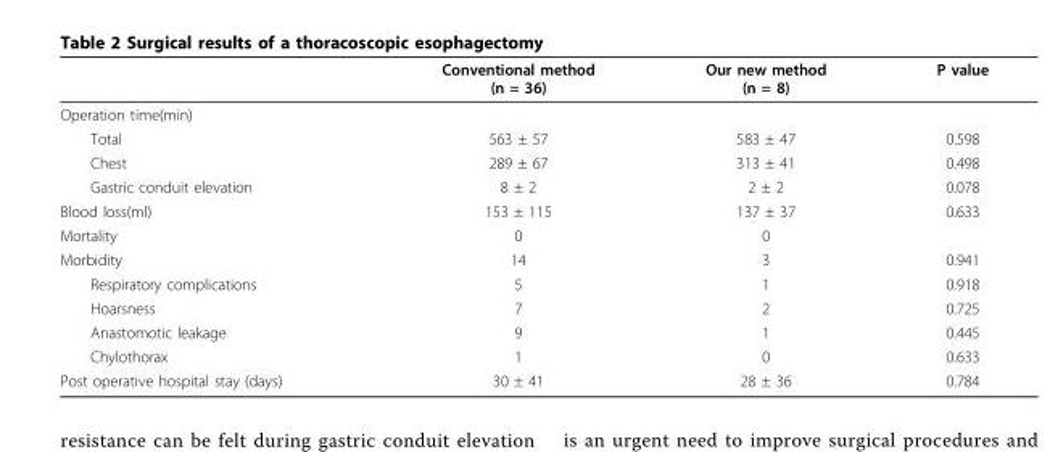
<table><thead><tr><td></td><td>Conventional method (n = 36)</td><td>Our new method (n = 8)</td><td>P value</td></tr></thead><tbody><tr><td colspan="4">Operation time(min)</td></tr><tr><td>Total</td><td>563 ± 57</td><td>583 ± 47</td><td>0.598</td></tr><tr><td>Chest</td><td>289 ± 67</td><td>313 ± 41</td><td>0.498</td></tr><tr><td>Gastric conduit elevation</td><td>8 ± 2</td><td>2 ± 2</td><td>0.078</td></tr><tr><td>Blood loss(ml)</td><td>153 ± 115</td><td>137 ± 37</td><td>0.633</td></tr><tr><td>Mortality</td><td>0</td><td>0</td><td></td></tr><tr><td>Morbidity</td><td>14</td><td>3</td><td>0.941</td></tr><tr><td>Respiratory complications</td><td>5</td><td>1</td><td>0.918</td></tr><tr><td>Hoarsness</td><td>7</td><td>2</td><td>0.725</td></tr><tr><td>Anastomotic leakage</td><td>9</td><td>1</td><td>0.445</td></tr><tr><td>Chylothorax</td><td>1</td><td>0</td><td>0.633</td></tr><tr><td>Post operative hospital stay (days)</td><td>30 ± 41</td><td>28 ± 36</td><td>0.784</td></tr></tbody></table>